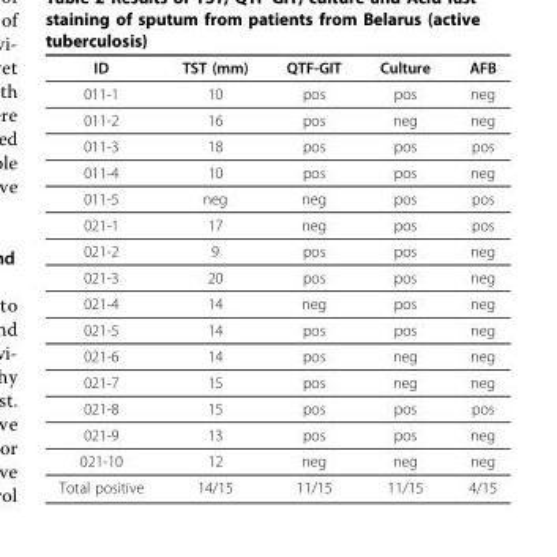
<table><thead><tr><td>ID</td><td>TST (mm)</td><td>QTF-GIT</td><td>Culture</td><td>AFB</td></tr></thead><tbody><tr><td>011-1</td><td>10</td><td>pos</td><td>pos</td><td>neg</td></tr><tr><td>011-2</td><td>16</td><td>pos</td><td>neg</td><td>neg</td></tr><tr><td>011-3</td><td>18</td><td>pos</td><td>pos</td><td>pos</td></tr><tr><td>011-4</td><td>10</td><td>pos</td><td>pos</td><td>neg</td></tr><tr><td>011-5</td><td>neg</td><td>neg</td><td>pos</td><td>pos</td></tr><tr><td>021-1</td><td>17</td><td>neg</td><td>pos</td><td>pos</td></tr><tr><td>021-2</td><td>9</td><td>pos</td><td>pos</td><td>neg</td></tr><tr><td>021-3</td><td>20</td><td>pos</td><td>pos</td><td>neg</td></tr><tr><td>021-4</td><td>14</td><td>neg</td><td>pos</td><td>neg</td></tr><tr><td>021-5</td><td>14</td><td>pos</td><td>pos</td><td>neg</td></tr><tr><td>021-6</td><td>14</td><td>pos</td><td>neg</td><td>neg</td></tr><tr><td>021-7</td><td>15</td><td>pos</td><td>neg</td><td>neg</td></tr><tr><td>021-8</td><td>15</td><td>pos</td><td>pos</td><td>pos</td></tr><tr><td>021-9</td><td>13</td><td>pos</td><td>pos</td><td>neg</td></tr><tr><td>021-10</td><td>12</td><td>neg</td><td>neg</td><td>neg</td></tr><tr><td>Total positive</td><td>14/15</td><td>11/15</td><td>11/15</td><td>4/15</td></tr></tbody></table>